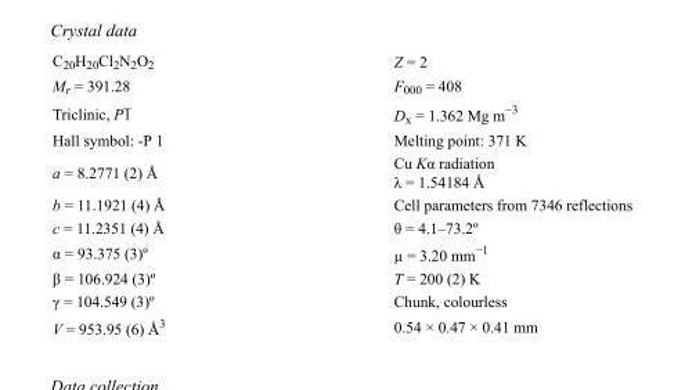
<table><tbody><tr><td>C<sub>20</sub>H<sub>20</sub>Cl<sub>2</sub>N<sub>2</sub>O<sub>2</sub></td><td>Z = 2</td></tr><tr><td>M<sub>r</sub> = 391.28</td><td>F000 = 408</td></tr><tr><td>Triclinic, P1</td><td>D<sub>x</sub> = 1.362 Mg m<sup>−3</sup></td></tr><tr><td>Hall symbol: -P 1</td><td>Melting point: 371 K</td></tr><tr><td>a = 8.2771 (2) Å</td><td>Cu Kα radiation λ = 1.54184 Å</td></tr><tr><td>b = 11.1921 (4) Å</td><td>Cell parameters from 7346 reflections</td></tr><tr><td>c = 11.2351 (4) Å</td><td>θ = 4.1–73.2º</td></tr><tr><td>α = 93.375 (3)º</td><td>µ = 3.20 mm<sup>−1</sup></td></tr><tr><td>β = 106.924 (3)º</td><td>T = 200 (2) K</td></tr><tr><td>γ = 104.549 (3)º</td><td>Chunk, colourless</td></tr><tr><td>V = 953.95 (6) Å<sup>3</sup></td><td>0.54 × 0.47 × 0.41 mm</td></tr></tbody></table>